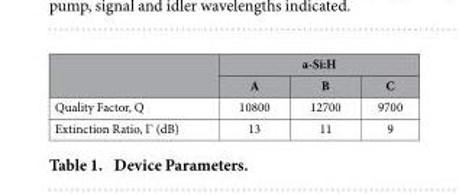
<table><thead><tr><td rowspan="2"></td><td colspan="3">a-Si:H</td></tr><tr><td>A</td><td>B</td><td>C</td></tr></thead><tbody><tr><td>Quality Factor, Q</td><td>10800</td><td>12700</td><td>9700</td></tr><tr><td>Extinction Ratio, Γ (dB)</td><td>13</td><td>11</td><td>9</td></tr></tbody></table>